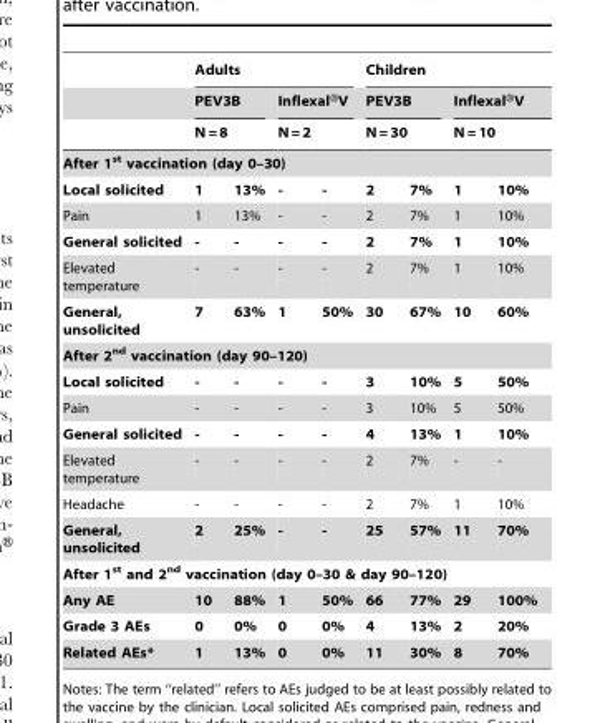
<table><thead><tr><td rowspan="3"></td><td colspan="4">Adults</td><td colspan="4">Children</td></tr><tr><td rowspan="2" colspan="2">PEV3B N = 8</td><td rowspan="2" colspan="2">Inflexal®V N = 2</td><td rowspan="2" colspan="2">PEV3B N = 30</td><td rowspan="2" colspan="2">Inflexal®V N = 10</td></tr><tr></tr><tr><td colspan="9">After 1<sup>st</sup> vaccination (day 0–30)</td></tr><tr><td>Local solicited</td><td>1</td><td>13%</td><td>-</td><td>-</td><td>2</td><td>7%</td><td>1</td><td>10%</td></tr></thead><tbody><tr><td>Pain</td><td>1</td><td>13%</td><td>-</td><td>-</td><td>2</td><td>7%</td><td>1</td><td>10%</td></tr><tr><td>General solicited</td><td>-</td><td>-</td><td>-</td><td>-</td><td>2</td><td>7%</td><td>1</td><td>10%</td></tr><tr><td>Elevated temperature</td><td>-</td><td>-</td><td>-</td><td>-</td><td>2</td><td>7%</td><td>1</td><td>10%</td></tr><tr><td>General, unsolicited</td><td>7</td><td>63%</td><td>1</td><td>50%</td><td>30</td><td>67%</td><td>10</td><td>60%</td></tr><tr><td colspan="9">After 2<sup>nd</sup> vaccination (day 90–120)</td></tr><tr><td>Local solicited</td><td>-</td><td>-</td><td>-</td><td>-</td><td>3</td><td>10%</td><td>5</td><td>50%</td></tr><tr><td>Pain</td><td>-</td><td>-</td><td>-</td><td>-</td><td>3</td><td>10%</td><td>5</td><td>50%</td></tr><tr><td>General solicited</td><td>-</td><td>-</td><td>-</td><td>-</td><td>4</td><td>13%</td><td>1</td><td>10%</td></tr><tr><td>Elevated temperature</td><td>-</td><td>-</td><td>-</td><td>-</td><td>2</td><td>7%</td><td>-</td><td>-</td></tr><tr><td>Headache</td><td>-</td><td>-</td><td>-</td><td>-</td><td>2</td><td>7%</td><td>1</td><td>10%</td></tr><tr><td>General, unsolicited</td><td>2</td><td>25%</td><td>-</td><td>-</td><td>25</td><td>57%</td><td>11</td><td>70%</td></tr><tr><td colspan="9">After 1<sup>st</sup> and 2<sup>nd</sup> vaccination (day 0–30 &amp; day 90–120)</td></tr><tr><td>Any AE</td><td>10</td><td>88%</td><td>1</td><td>50%</td><td>66</td><td>77%</td><td>29</td><td>100%</td></tr><tr><td>Grade 3 AEs</td><td>0</td><td>0%</td><td>0</td><td>0%</td><td>4</td><td>13%</td><td>2</td><td>20%</td></tr><tr><td>Related AEs*</td><td>1</td><td>13%</td><td>0</td><td>0%</td><td>11</td><td>30%</td><td>8</td><td>70%</td></tr></tbody></table>